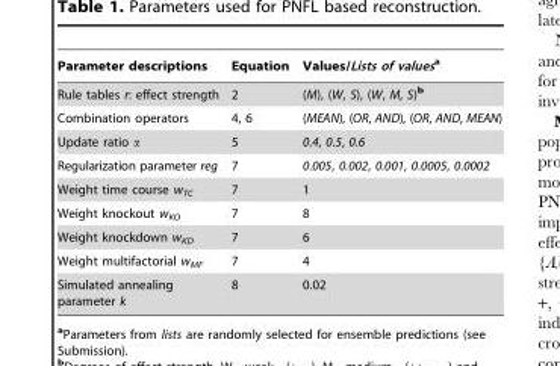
<table><thead><tr><td>Parameter descriptions</td><td>Equation</td><td>Values/Lists of valuesa</td></tr></thead><tbody><tr><td>Rule tables r: effect strength</td><td>2</td><td>(M), (W, S), (W, M, S)<sup>b</sup></td></tr><tr><td>Combination operators</td><td>4, 6</td><td>(MEAN), (OR, AND), (OR, AND, MEAN)</td></tr><tr><td>Update ratio α</td><td>5</td><td>0.4, 0.5, 0.6</td></tr><tr><td>Regularization parameter reg</td><td>7</td><td>0.005, 0.002, 0.001, 0.0005, 0.0002</td></tr><tr><td>Weight time course w<sub>TC</sub></td><td>7</td><td>1</td></tr><tr><td>Weight knockout w<sub>KO</sub></td><td>7</td><td>8</td></tr><tr><td>Weight knockdown w<sub>KD</sub></td><td>7</td><td>6</td></tr><tr><td>Weight multifactorial w<sub>MF</sub></td><td>7</td><td>4</td></tr><tr><td>Simulated annealing parameter k</td><td>8</td><td>0.02</td></tr></tbody></table>